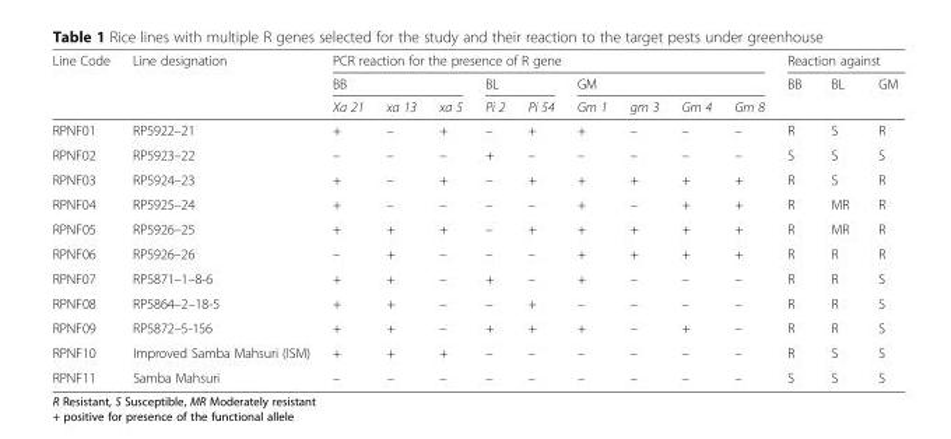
<table><thead><tr><td rowspan="3">Line Code</td><td rowspan="3">Line designation</td><td colspan="9">PCR reaction for the presence of R gene</td><td colspan="3">Reaction against</td></tr><tr><td colspan="3">BB</td><td colspan="2">BL</td><td colspan="4">GM</td><td rowspan="2">BB</td><td rowspan="2">BL</td><td rowspan="2">GM</td></tr><tr><td>Xa 21</td><td>xa 13</td><td>xa 5</td><td>Pi 2</td><td>Pi 54</td><td>Gm 1</td><td>gm 3</td><td>Gm 4</td><td>Gm 8</td></tr></thead><tbody><tr><td>RPNF01</td><td>RP5922–21</td><td>+</td><td>–</td><td>+</td><td>–</td><td>+</td><td>+</td><td>–</td><td>–</td><td>–</td><td>R</td><td>S</td><td>R</td></tr><tr><td>RPNF02</td><td>RP5923–22</td><td>–</td><td>–</td><td>–</td><td>+</td><td>–</td><td>–</td><td>–</td><td>–</td><td>–</td><td>S</td><td>S</td><td>S</td></tr><tr><td>RPNF03</td><td>RP5924–23</td><td>+</td><td>–</td><td>+</td><td>–</td><td>+</td><td>+</td><td>+</td><td>+</td><td>+</td><td>R</td><td>S</td><td>R</td></tr><tr><td>RPNF04</td><td>RP5925–24</td><td>+</td><td>–</td><td>–</td><td>–</td><td>–</td><td>+</td><td>–</td><td>+</td><td>+</td><td>R</td><td>MR</td><td>R</td></tr><tr><td>RPNF05</td><td>RP5926–25</td><td>+</td><td>+</td><td>+</td><td>–</td><td>+</td><td>+</td><td>+</td><td>+</td><td>+</td><td>R</td><td>MR</td><td>R</td></tr><tr><td>RPNF06</td><td>RP5926–26</td><td>–</td><td>+</td><td>–</td><td>–</td><td>–</td><td>+</td><td>+</td><td>+</td><td>+</td><td>R</td><td>R</td><td>R</td></tr><tr><td>RPNF07</td><td>RP5871–1–8-6</td><td>+</td><td>+</td><td>–</td><td>+</td><td>–</td><td>+</td><td>–</td><td>–</td><td>–</td><td>R</td><td>R</td><td>S</td></tr><tr><td>RPNF08</td><td>RP5864–2–18-5</td><td>+</td><td>+</td><td>–</td><td>–</td><td>+</td><td>–</td><td>–</td><td>–</td><td>–</td><td>R</td><td>R</td><td>S</td></tr><tr><td>RPNF09</td><td>RP5872–5-156</td><td>+</td><td>+</td><td>–</td><td>+</td><td>+</td><td>+</td><td>–</td><td>+</td><td>–</td><td>R</td><td>R</td><td>S</td></tr><tr><td>RPNF10</td><td>Improved Samba Mahsuri (ISM)</td><td>+</td><td>+</td><td>+</td><td>–</td><td>–</td><td>–</td><td>–</td><td>–</td><td>–</td><td>R</td><td>S</td><td>S</td></tr><tr><td>RPNF11</td><td>Samba Mahsuri</td><td>–</td><td>–</td><td>–</td><td>–</td><td>–</td><td>–</td><td>–</td><td>–</td><td>–</td><td>S</td><td>S</td><td>S</td></tr></tbody></table>